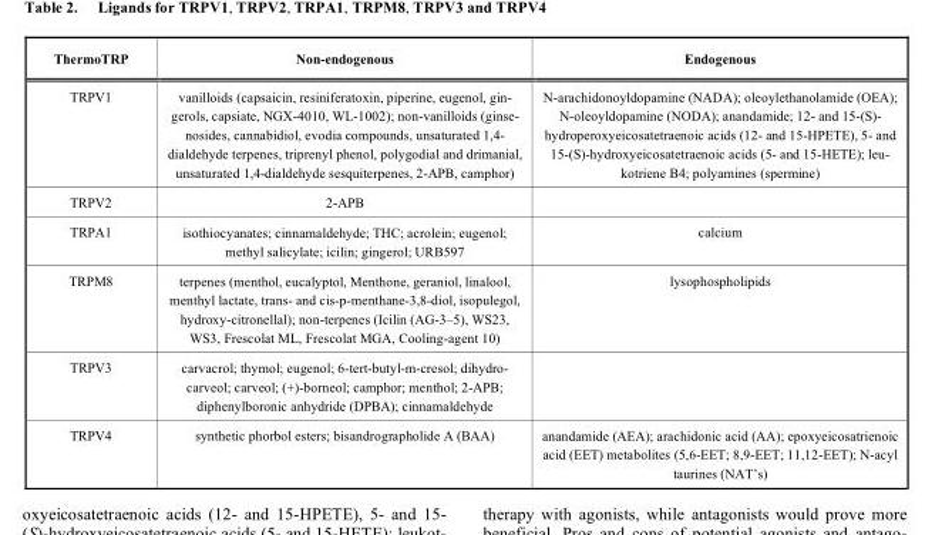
<table><thead><tr><td>ThermoTRP</td><td>Non-endogenous</td><td>Endogenous</td></tr></thead><tbody><tr><td>TRPV1</td><td>vanilloids (capsaicin, resiniferatoxin, piperine, eugenol, gin- gerols, capsiate, NGX-4010, WL-1002); non-vanilloids (ginse- nosides, cannabidiol, evodia compounds, unsaturated 1,4- dialdehyde terpenes, triprenyl phenol, polygodial and drimanial, unsaturated 1,4-dialdehyde sesquiterpenes, 2-APB, camphor)</td><td>N-arachidonoyldopamine (NADA); oleoylethanolamide (OEA); N-oleoyldopamine (NODA); anandamide; 12- and 15-(S)- hydroperoxyeicosatetraenoic acids (12- and 15-HPETE), 5- and 15-(S)-hydroxyeicosatetraenoic acids (5- and 15-HETE); leu- kotriene B4; polyamines (spermine)</td></tr><tr><td>TRPV2</td><td>2-APB</td><td></td></tr><tr><td>TRPA1</td><td>isothiocyanates; cinnamaldehyde; THC; acrolein; eugenol; methyl salicylate; icilin; gingerol; URB597</td><td>calcium</td></tr><tr><td>TRPM8</td><td>terpenes (menthol, eucalyptol, Menthone, geraniol, linalool, menthyl lactate, trans- and cis-p-menthane-3,8-diol, isopulegol, hydroxy-citronellal); non-terpenes (Icilin (AG-3–5), WS23, WS3, Frescolat ML, Frescolat MGA, Cooling-agent 10)</td><td>lysophospholipids</td></tr><tr><td>TRPV3</td><td>carvacrol; thymol; eugenol; 6-tert-butyl-m-cresol; dihydro- carveol; carveol; (+)-borneol; camphor; menthol; 2-APB; diphenylboronic anhydride (DPBA); cinnamaldehyde</td><td></td></tr><tr><td>TRPV4</td><td>synthetic phorbol esters; bisandrographolide A (BAA)</td><td>anandamide (AEA); arachidonic acid (AA); epoxyeicosatrienoic acid (EET) metabolites (5,6-EET; 8,9-EET; 11,12-EET); N-acyl taurines (NAT’s)</td></tr></tbody></table>